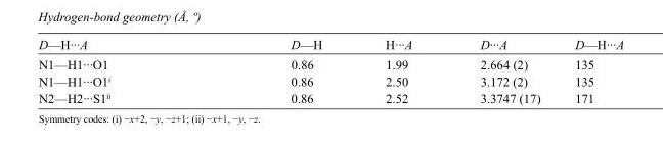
<table><tbody><tr><td>D—H···A</td><td>D—H</td><td>H···A</td><td>D···A</td><td>D—H···A</td></tr><tr><td>N1—H1···O1</td><td>0.86</td><td>1.99</td><td>2.664 (2)</td><td>135</td></tr><tr><td>N1—H1···O1<sup>i</sup></td><td>0.86</td><td>2.50</td><td>3.172 (2)</td><td>135</td></tr><tr><td>N2—H2···S1<sup>ii</sup></td><td>0.86</td><td>2.52</td><td>3.3747 (17)</td><td>171</td></tr></tbody></table>